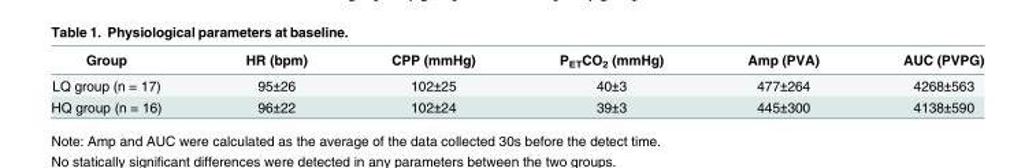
<table><thead><tr><td>Group</td><td>HR (bpm)</td><td>CPP (mmHg)</td><td>P<sub>ET</sub>CO<sub>2</sub> (mmHg)</td><td>Amp (PVA)</td><td>AUC (PVPG)</td></tr></thead><tbody><tr><td>LQ group (n = 17)</td><td>95±26</td><td>102±25</td><td>40±3</td><td>477±264</td><td>4268±563</td></tr><tr><td>HQ group (n = 16)</td><td>96±22</td><td>102±24</td><td>39±3</td><td>445±300</td><td>4138±590</td></tr></tbody></table>